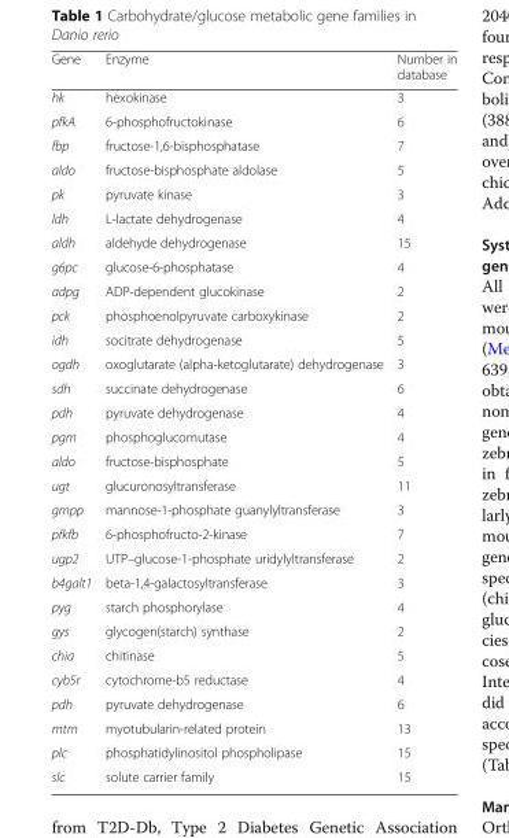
<table><thead><tr><td>Gene</td><td>Enzyme</td><td>Number in database</td></tr></thead><tbody><tr><td>hk</td><td>hexokinase</td><td>3</td></tr><tr><td>pfkA</td><td>6-phosphofructokinase</td><td>6</td></tr><tr><td>fbp</td><td>fructose-1,6-bisphosphatase</td><td>7</td></tr><tr><td>aldo</td><td>fructose-bisphosphate aldolase</td><td>5</td></tr><tr><td>pk</td><td>pyruvate kinase</td><td>3</td></tr><tr><td>ldh</td><td>L-lactate dehydrogenase</td><td>4</td></tr><tr><td>aldh</td><td>aldehyde dehydrogenase</td><td>15</td></tr><tr><td>g6pc</td><td>glucose-6-phosphatase</td><td>4</td></tr><tr><td>adpg</td><td>ADP-dependent glucokinase</td><td>2</td></tr><tr><td>pck</td><td>phosphoenolpyruvate carboxykinase</td><td>2</td></tr><tr><td>idh</td><td>socitrate dehydrogenase</td><td>5</td></tr><tr><td>ogdh</td><td>oxoglutarate (alpha-ketoglutarate) dehydrogenase</td><td>3</td></tr><tr><td>sdh</td><td>succinate dehydrogenase</td><td>6</td></tr><tr><td>pdh</td><td>pyruvate dehydrogenase</td><td>4</td></tr><tr><td>pgm</td><td>phosphoglucomutase</td><td>4</td></tr><tr><td>aldo</td><td>fructose-bisphosphate</td><td>5</td></tr><tr><td>ugt</td><td>glucuronosyltransferase</td><td>11</td></tr><tr><td>gmpp</td><td>mannose-1-phosphate guanylyltransferase</td><td>3</td></tr><tr><td>pfkfb</td><td>6-phosphofructo-2-kinase</td><td>7</td></tr><tr><td>ugp2</td><td>UTP–glucose-1-phosphate uridylyltransferase</td><td>2</td></tr><tr><td>b4galt1</td><td>beta-1,4-galactosyltransferase</td><td>3</td></tr><tr><td>pyg</td><td>starch phosphorylase</td><td>4</td></tr><tr><td>gys</td><td>glycogen(starch) synthase</td><td>2</td></tr><tr><td>chia</td><td>chitinase</td><td>5</td></tr><tr><td>cyb5r</td><td>cytochrome-b5 reductase</td><td>4</td></tr><tr><td>pdh</td><td>pyruvate dehydrogenase</td><td>6</td></tr><tr><td>mtm</td><td>myotubularin-related protein</td><td>13</td></tr><tr><td>plc</td><td>phosphatidylinositol phospholipase</td><td>15</td></tr><tr><td>slc</td><td>solute carrier family</td><td>15</td></tr></tbody></table>